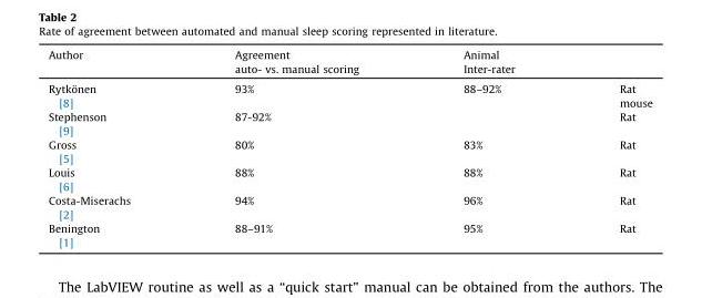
<table><thead><tr><td rowspan="2">Author</td><td rowspan="2">Agreement auto- vs. manual scoring</td><td rowspan="2">Animal Inter-rater</td><td rowspan="2"></td></tr><tr></tr></thead><tbody><tr><td>Rytkönen [8]</td><td>93%</td><td>88–92%</td><td>Rat mouse</td></tr><tr><td>Stephenson [9]</td><td>87-92%</td><td></td><td>Rat</td></tr><tr><td>Gross [5]</td><td>80%</td><td>83%</td><td>Rat</td></tr><tr><td>Louis [6]</td><td>88%</td><td>88%</td><td>Rat</td></tr><tr><td>Costa-Miserachs [2]</td><td>94%</td><td>96%</td><td>Rat</td></tr><tr><td>Benington [1]</td><td>88–91%</td><td>95%</td><td>Rat</td></tr></tbody></table>